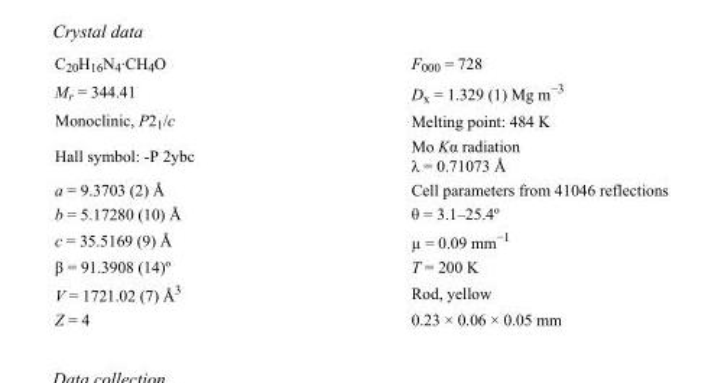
<table><tbody><tr><td>C<sub>20</sub>H<sub>16</sub>N<sub>4</sub>·CH<sub>4</sub>O</td><td>F000 = 728</td></tr><tr><td>M<sub>r</sub> = 344.41</td><td>D<sub>x</sub> = 1.329 (1) Mg m<sup>−3</sup></td></tr><tr><td>Monoclinic, P2<sub>1</sub>/c</td><td>Melting point: 484 K</td></tr><tr><td>Hall symbol: -P 2ybc</td><td>Mo Kα radiation λ = 0.71073 Å</td></tr><tr><td>a = 9.3703 (2) Å</td><td>Cell parameters from 41046 reflections</td></tr><tr><td>b = 5.17280 (10) Å</td><td>θ = 3.1–25.4º</td></tr><tr><td>c = 35.5169 (9) Å</td><td>µ = 0.09 mm<sup>−1</sup></td></tr><tr><td>β = 91.3908 (14)º</td><td>T = 200 K</td></tr><tr><td>V = 1721.02 (7) Å<sup>3</sup></td><td>Rod, yellow</td></tr><tr><td>Z = 4</td><td>0.23 × 0.06 × 0.05 mm</td></tr></tbody></table>